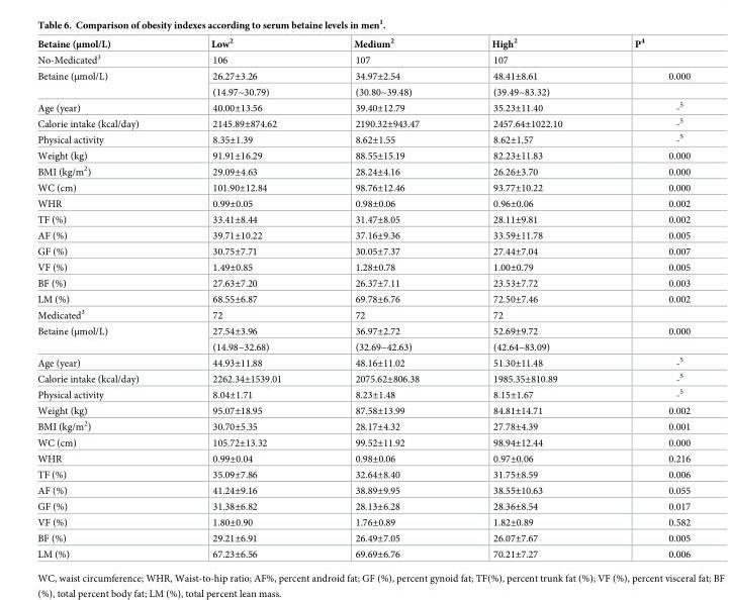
<table><thead><tr><td>Betaine (μmol/L)</td><td>Low<sup>2</sup></td><td>Medium<sup>2</sup></td><td>High<sup>2</sup></td><td>P<sup>4</sup></td></tr></thead><tbody><tr><td>No-Medicated<sup>3</sup></td><td>106</td><td>107</td><td>107</td><td></td></tr><tr><td rowspan="2">Betaine (μmol/L)</td><td>26.27±3.26</td><td>34.97±2.54</td><td>48.41±8.61</td><td>0.000</td></tr><tr><td>(14.97~30.79)</td><td>(30.80~39.48)</td><td>(39.49~83.32)</td><td></td></tr><tr><td>Age (year)</td><td>40.00±13.56</td><td>39.40±12.79</td><td>35.23±11.40</td><td>-<sup>5</sup></td></tr><tr><td>Calorie intake (kcal/day)</td><td>2145.89±874.62</td><td>2190.32±943.47</td><td>2457.64±1022.10</td><td>-<sup>5</sup></td></tr><tr><td>Physical activity</td><td>8.35±1.39</td><td>8.62±1.55</td><td>8.62±1.57</td><td>-<sup>5</sup></td></tr><tr><td>Weight (kg)</td><td>91.91±16.29</td><td>88.55±15.19</td><td>82.23±11.83</td><td>0.000</td></tr><tr><td>BMI (kg/m<sup>2</sup>)</td><td>29.09±4.63</td><td>28.24±4.16</td><td>26.26±3.70</td><td>0.000</td></tr><tr><td>WC (cm)</td><td>101.90±12.84</td><td>98.76±12.46</td><td>93.77±10.22</td><td>0.000</td></tr><tr><td>WHR</td><td>0.99±0.05</td><td>0.98±0.06</td><td>0.96±0.06</td><td>0.002</td></tr><tr><td>TF (%)</td><td>33.41±8.44</td><td>31.47±8.05</td><td>28.11±9.81</td><td>0.002</td></tr><tr><td>AF (%)</td><td>39.71±10.22</td><td>37.16±9.36</td><td>33.59±11.78</td><td>0.005</td></tr><tr><td>GF (%)</td><td>30.75±7.71</td><td>30.05±7.37</td><td>27.44±7.04</td><td>0.007</td></tr><tr><td>VF (%)</td><td>1.49±0.85</td><td>1.28±0.78</td><td>1.00±0.79</td><td>0.005</td></tr><tr><td>BF (%)</td><td>27.63±7.20</td><td>26.37±7.11</td><td>23.53±7.72</td><td>0.003</td></tr><tr><td>LM (%)</td><td>68.55±6.87</td><td>69.78±6.76</td><td>72.50±7.46</td><td>0.002</td></tr><tr><td>Medicated<sup>3</sup></td><td>72</td><td>72</td><td>72</td><td></td></tr><tr><td rowspan="2">Betaine (μmol/L)</td><td>27.54±3.96</td><td>36.97±2.72</td><td>52.69±9.72</td><td>0.000</td></tr><tr><td>(14.98~32.68)</td><td>(32.69~42.63)</td><td>(42.64~83.09)</td><td></td></tr><tr><td>Age (year)</td><td>44.93±11.88</td><td>48.16±11.02</td><td>51.30±11.48</td><td>-<sup>5</sup></td></tr><tr><td>Calorie intake (kcal/day)</td><td>2262.34±1539.01</td><td>2075.62±806.38</td><td>1985.35±810.89</td><td>-<sup>5</sup></td></tr><tr><td>Physical activity</td><td>8.04±1.71</td><td>8.23±1.48</td><td>8.15±1.67</td><td>-<sup>5</sup></td></tr><tr><td>Weight (kg)</td><td>95.07±18.95</td><td>87.58±13.99</td><td>84.81±14.71</td><td>0.002</td></tr><tr><td>BMI (kg/m<sup>2</sup>)</td><td>30.70±5.35</td><td>28.17±4.32</td><td>27.78±4.39</td><td>0.001</td></tr><tr><td>WC (cm)</td><td>105.72±13.32</td><td>99.52±11.92</td><td>98.94±12.44</td><td>0.000</td></tr><tr><td>WHR</td><td>0.99±0.04</td><td>0.98±0.06</td><td>0.97±0.06</td><td>0.216</td></tr><tr><td>TF (%)</td><td>35.09±7.86</td><td>32.64±8.40</td><td>31.75±8.59</td><td>0.006</td></tr><tr><td>AF (%)</td><td>41.24±9.16</td><td>38.89±9.95</td><td>38.55±10.63</td><td>0.055</td></tr><tr><td>GF (%)</td><td>31.38±6.82</td><td>28.13±6.28</td><td>28.36±8.54</td><td>0.017</td></tr><tr><td>VF (%)</td><td>1.80±0.90</td><td>1.76±0.89</td><td>1.82±0.89</td><td>0.582</td></tr><tr><td>BF (%)</td><td>29.21±6.91</td><td>26.49±7.05</td><td>26.07±7.67</td><td>0.005</td></tr><tr><td>LM (%)</td><td>67.23±6.56</td><td>69.69±6.76</td><td>70.21±7.27</td><td>0.006</td></tr></tbody></table>